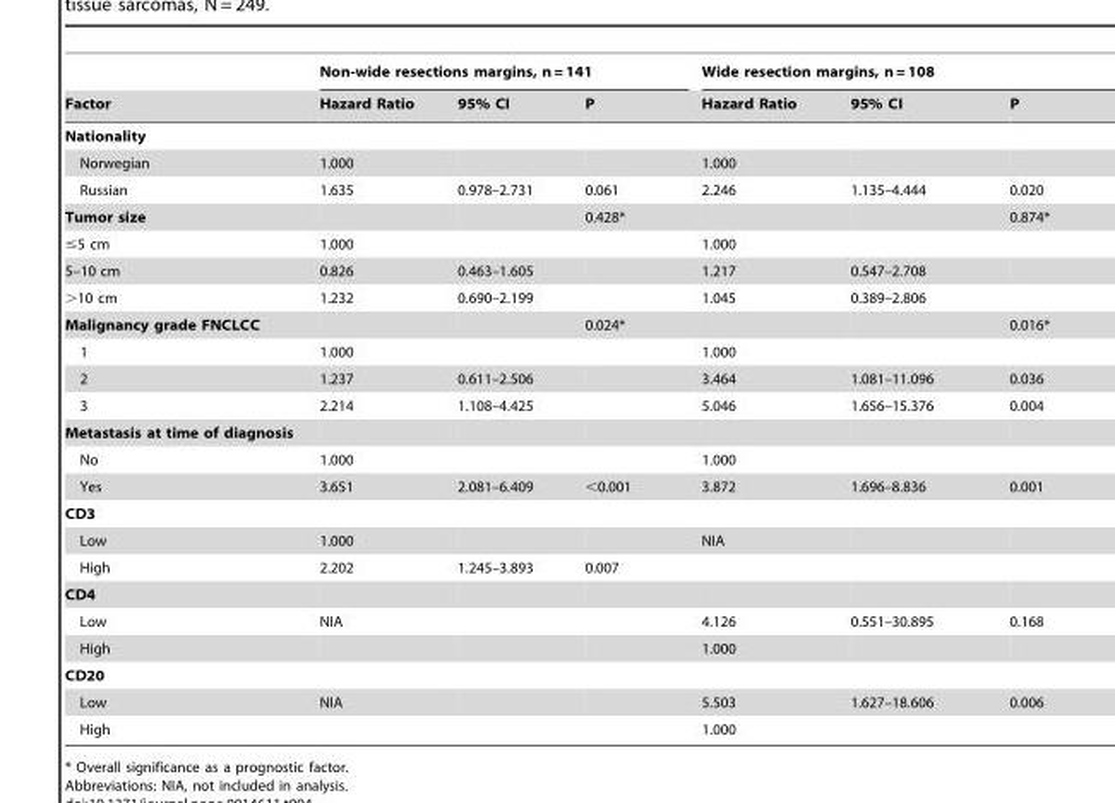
<table><thead><tr><td rowspan="2">Factor</td><td colspan="3">Non-wide resections margins, n = 141</td><td colspan="3">Wide resection margins, n = 108</td></tr><tr><td>Hazard Ratio</td><td>95% CI</td><td>P</td><td>Hazard Ratio</td><td>95% CI</td><td>P</td></tr></thead><tbody><tr><td colspan="7">Nationality</td></tr><tr><td>Norwegian</td><td>1.000</td><td></td><td></td><td>1.000</td><td></td><td></td></tr><tr><td>Russian</td><td>1.635</td><td>0.978–2.731</td><td>0.061</td><td>2.246</td><td>1.135–4.444</td><td>0.020</td></tr><tr><td>Tumor size</td><td></td><td></td><td>0.428*</td><td></td><td></td><td>0.874*</td></tr><tr><td>≤5 cm</td><td>1.000</td><td></td><td></td><td>1.000</td><td></td><td></td></tr><tr><td>5–10 cm</td><td>0.826</td><td>0.463–1.605</td><td></td><td>1.217</td><td>0.547–2.708</td><td></td></tr><tr><td>&gt;10 cm</td><td>1.232</td><td>0.690–2.199</td><td></td><td>1.045</td><td>0.389–2.806</td><td></td></tr><tr><td>Malignancy grade FNCLCC</td><td></td><td></td><td>0.024*</td><td></td><td></td><td>0.016*</td></tr><tr><td>1</td><td>1.000</td><td></td><td></td><td>1.000</td><td></td><td></td></tr><tr><td>2</td><td>1.237</td><td>0.611–2.506</td><td></td><td>3.464</td><td>1.081–11.096</td><td>0.036</td></tr><tr><td>3</td><td>2.214</td><td>1.108–4.425</td><td></td><td>5.046</td><td>1.656–15.376</td><td>0.004</td></tr><tr><td colspan="7">Metastasis at time of diagnosis</td></tr><tr><td>No</td><td>1.000</td><td></td><td></td><td>1.000</td><td></td><td></td></tr><tr><td>Yes</td><td>3.651</td><td>2.081–6.409</td><td>&lt;0.001</td><td>3.872</td><td>1.696–8.836</td><td>0.001</td></tr><tr><td colspan="7">CD3</td></tr><tr><td>Low</td><td>1.000</td><td></td><td></td><td>NIA</td><td></td><td></td></tr><tr><td>High</td><td>2.202</td><td>1.245–3.893</td><td>0.007</td><td></td><td></td><td></td></tr><tr><td colspan="7">CD4</td></tr><tr><td>Low</td><td>NIA</td><td></td><td></td><td>4.126</td><td>0.551–30.895</td><td>0.168</td></tr><tr><td>High</td><td></td><td></td><td></td><td>1.000</td><td></td><td></td></tr><tr><td colspan="7">CD20</td></tr><tr><td>Low</td><td>NIA</td><td></td><td></td><td>5.503</td><td>1.627–18.606</td><td>0.006</td></tr><tr><td>High</td><td></td><td></td><td></td><td>1.000</td><td></td><td></td></tr></tbody></table>